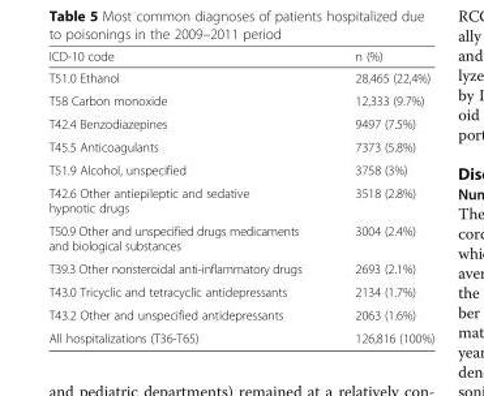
<table><thead><tr><td>ICD-10 code</td><td>n (%)</td></tr></thead><tbody><tr><td>T51.0 Ethanol</td><td>28,465 (22,4%)</td></tr><tr><td>T58 Carbon monoxide</td><td>12,333 (9.7%)</td></tr><tr><td>T42.4 Benzodiazepines</td><td>9497 (7.5%)</td></tr><tr><td>T45.5 Anticoagulants</td><td>7373 (5.8%)</td></tr><tr><td>T51.9 Alcohol, unspecified</td><td>3758 (3%)</td></tr><tr><td>T42.6 Other antiepileptic and sedative hypnotic drugs</td><td>3518 (2.8%)</td></tr><tr><td>T50.9 Other and unspecified drugs medicaments and biological substances</td><td>3004 (2.4%)</td></tr><tr><td>T39.3 Other nonsteroidal anti-inflammatory drugs</td><td>2693 (2.1%)</td></tr><tr><td>T43.0 Tricyclic and tetracyclic antidepressants</td><td>2134 (1.7%)</td></tr><tr><td>T43.2 Other and unspecified antidepressants</td><td>2063 (1.6%)</td></tr><tr><td>All hospitalizations (T36-T65)</td><td>126,816 (100%)</td></tr></tbody></table>